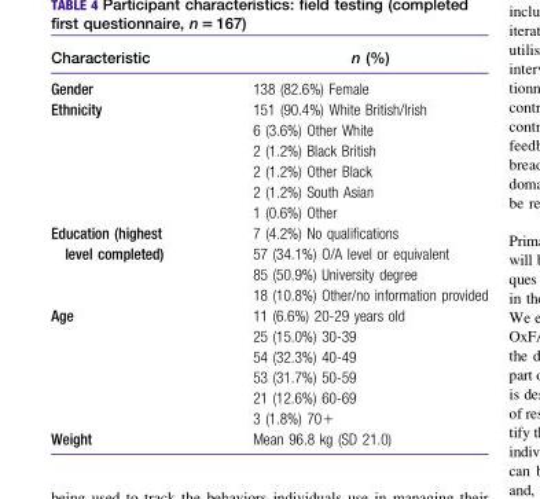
<table><thead><tr><td>Characteristic</td><td>n (%)</td></tr></thead><tbody><tr><td>Gender</td><td>138 (82.6%) Female</td></tr><tr><td>Ethnicity</td><td>151 (90.4%) White British/Irish 6 (3.6%) Other White 2 (1.2%) Black British 2 (1.2%) Other Black 2 (1.2%) South Asian 1 (0.6%) Other</td></tr><tr><td>Education (highest level completed)</td><td>7 (4.2%) No qualifications 57 (34.1%) O/A level or equivalent 85 (50.9%) University degree 18 (10.8%) Other/no information provided</td></tr><tr><td>Age</td><td>11 (6.6%) 20-29 years old 25 (15.0%) 30-39 54 (32.3%) 40-49 53 (31.7%) 50-59 21 (12.6%) 60-69 3 (1.8%) 70+</td></tr><tr><td>Weight</td><td>Mean 96.8 kg (SD 21.0)</td></tr></tbody></table>